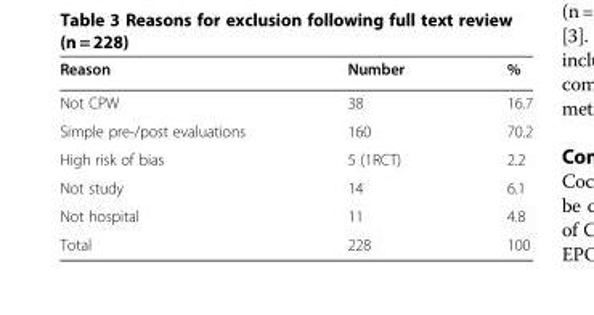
<table><thead><tr><td>Reason</td><td>Number</td><td>%</td></tr></thead><tbody><tr><td>Not CPW</td><td>38</td><td>16.7</td></tr><tr><td>Simple pre-/post evaluations</td><td>160</td><td>70.2</td></tr><tr><td>High risk of bias</td><td>5 (1RCT)</td><td>2.2</td></tr><tr><td>Not study</td><td>14</td><td>6.1</td></tr><tr><td>Not hospital</td><td>11</td><td>4.8</td></tr><tr><td>Total</td><td>228</td><td>100</td></tr></tbody></table>